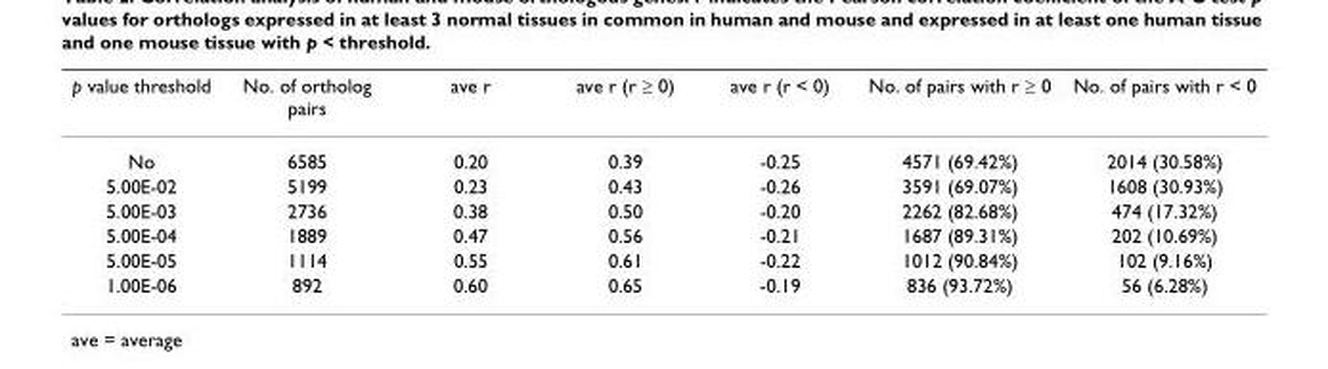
<table><thead><tr><td>p value threshold</td><td>No. of ortholog pairs</td><td>ave r</td><td>ave r (r ≥ 0)</td><td>ave r (r &lt; 0)</td><td>No. of pairs with r ≥ 0</td><td>No. of pairs with r &lt; 0</td></tr></thead><tbody><tr><td>No</td><td>6585</td><td>0.20</td><td>0.39</td><td>-0.25</td><td>4571 (69.42%)</td><td>2014 (30.58%)</td></tr><tr><td>5.00E-02</td><td>5199</td><td>0.23</td><td>0.43</td><td>-0.26</td><td>3591 (69.07%)</td><td>1608 (30.93%)</td></tr><tr><td>5.00E-03</td><td>2736</td><td>0.38</td><td>0.50</td><td>-0.20</td><td>2262 (82.68%)</td><td>474 (17.32%)</td></tr><tr><td>5.00E-04</td><td>1889</td><td>0.47</td><td>0.56</td><td>-0.21</td><td>1687 (89.31%)</td><td>202 (10.69%)</td></tr><tr><td>5.00E-05</td><td>1114</td><td>0.55</td><td>0.61</td><td>-0.22</td><td>1012 (90.84%)</td><td>102 (9.16%)</td></tr><tr><td>1.00E-06</td><td>892</td><td>0.60</td><td>0.65</td><td>-0.19</td><td>836 (93.72%)</td><td>56 (6.28%)</td></tr></tbody></table>